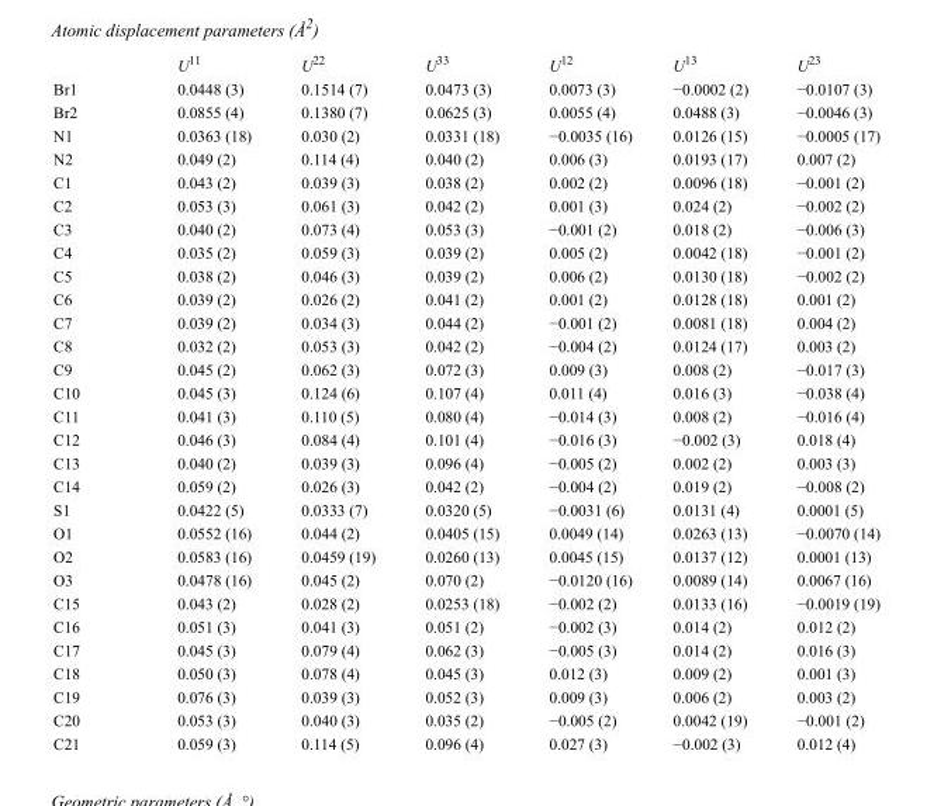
<table><thead><tr><td></td><td>U<sup>11</sup></td><td>U<sup>22</sup></td><td>U<sup>33</sup></td><td>U<sup>12</sup></td><td>U<sup>13</sup></td><td>U<sup>23</sup></td></tr></thead><tbody><tr><td>Br1</td><td>0.0448 (3)</td><td>0.1514 (7)</td><td>0.0473 (3)</td><td>0.0073 (3)</td><td>−0.0002 (2)</td><td>−0.0107 (3)</td></tr><tr><td>Br2</td><td>0.0855 (4)</td><td>0.1380 (7)</td><td>0.0625 (3)</td><td>0.0055 (4)</td><td>0.0488 (3)</td><td>−0.0046 (3)</td></tr><tr><td>N1</td><td>0.0363 (18)</td><td>0.030 (2)</td><td>0.0331 (18)</td><td>−0.0035 (16)</td><td>0.0126 (15)</td><td>−0.0005 (17)</td></tr><tr><td>N2</td><td>0.049 (2)</td><td>0.114 (4)</td><td>0.040 (2)</td><td>0.006 (3)</td><td>0.0193 (17)</td><td>0.007 (2)</td></tr><tr><td>C1</td><td>0.043 (2)</td><td>0.039 (3)</td><td>0.038 (2)</td><td>0.002 (2)</td><td>0.0096 (18)</td><td>−0.001 (2)</td></tr><tr><td>C2</td><td>0.053 (3)</td><td>0.061 (3)</td><td>0.042 (2)</td><td>0.001 (3)</td><td>0.024 (2)</td><td>−0.002 (2)</td></tr><tr><td>C3</td><td>0.040 (2)</td><td>0.073 (4)</td><td>0.053 (3)</td><td>−0.001 (2)</td><td>0.018 (2)</td><td>−0.006 (3)</td></tr><tr><td>C4</td><td>0.035 (2)</td><td>0.059 (3)</td><td>0.039 (2)</td><td>0.005 (2)</td><td>0.0042 (18)</td><td>−0.001 (2)</td></tr><tr><td>C5</td><td>0.038 (2)</td><td>0.046 (3)</td><td>0.039 (2)</td><td>0.006 (2)</td><td>0.0130 (18)</td><td>−0.002 (2)</td></tr><tr><td>C6</td><td>0.039 (2)</td><td>0.026 (2)</td><td>0.041 (2)</td><td>0.001 (2)</td><td>0.0128 (18)</td><td>0.001 (2)</td></tr><tr><td>C7</td><td>0.039 (2)</td><td>0.034 (3)</td><td>0.044 (2)</td><td>−0.001 (2)</td><td>0.0081 (18)</td><td>0.004 (2)</td></tr><tr><td>C8</td><td>0.032 (2)</td><td>0.053 (3)</td><td>0.042 (2)</td><td>−0.004 (2)</td><td>0.0124 (17)</td><td>0.003 (2)</td></tr><tr><td>C9</td><td>0.045 (2)</td><td>0.062 (3)</td><td>0.072 (3)</td><td>0.009 (3)</td><td>0.008 (2)</td><td>−0.017 (3)</td></tr><tr><td>C10</td><td>0.045 (3)</td><td>0.124 (6)</td><td>0.107 (4)</td><td>0.011 (4)</td><td>0.016 (3)</td><td>−0.038 (4)</td></tr><tr><td>C11</td><td>0.041 (3)</td><td>0.110 (5)</td><td>0.080 (4)</td><td>−0.014 (3)</td><td>0.008 (2)</td><td>−0.016 (4)</td></tr><tr><td>C12</td><td>0.046 (3)</td><td>0.084 (4)</td><td>0.101 (4)</td><td>−0.016 (3)</td><td>−0.002 (3)</td><td>0.018 (4)</td></tr><tr><td>C13</td><td>0.040 (2)</td><td>0.039 (3)</td><td>0.096 (4)</td><td>−0.005 (2)</td><td>0.002 (2)</td><td>0.003 (3)</td></tr><tr><td>C14</td><td>0.059 (2)</td><td>0.026 (3)</td><td>0.042 (2)</td><td>−0.004 (2)</td><td>0.019 (2)</td><td>−0.008 (2)</td></tr><tr><td>S1</td><td>0.0422 (5)</td><td>0.0333 (7)</td><td>0.0320 (5)</td><td>−0.0031 (6)</td><td>0.0131 (4)</td><td>0.0001 (5)</td></tr><tr><td>O1</td><td>0.0552 (16)</td><td>0.044 (2)</td><td>0.0405 (15)</td><td>0.0049 (14)</td><td>0.0263 (13)</td><td>−0.0070 (14)</td></tr><tr><td>O2</td><td>0.0583 (16)</td><td>0.0459 (19)</td><td>0.0260 (13)</td><td>0.0045 (15)</td><td>0.0137 (12)</td><td>0.0001 (13)</td></tr><tr><td>O3</td><td>0.0478 (16)</td><td>0.045 (2)</td><td>0.070 (2)</td><td>−0.0120 (16)</td><td>0.0089 (14)</td><td>0.0067 (16)</td></tr><tr><td>C15</td><td>0.043 (2)</td><td>0.028 (2)</td><td>0.0253 (18)</td><td>−0.002 (2)</td><td>0.0133 (16)</td><td>−0.0019 (19)</td></tr><tr><td>C16</td><td>0.051 (3)</td><td>0.041 (3)</td><td>0.051 (2)</td><td>−0.002 (3)</td><td>0.014 (2)</td><td>0.012 (2)</td></tr><tr><td>C17</td><td>0.045 (3)</td><td>0.079 (4)</td><td>0.062 (3)</td><td>−0.005 (3)</td><td>0.014 (2)</td><td>0.016 (3)</td></tr><tr><td>C18</td><td>0.050 (3)</td><td>0.078 (4)</td><td>0.045 (3)</td><td>0.012 (3)</td><td>0.009 (2)</td><td>0.001 (3)</td></tr><tr><td>C19</td><td>0.076 (3)</td><td>0.039 (3)</td><td>0.052 (3)</td><td>0.009 (3)</td><td>0.006 (2)</td><td>0.003 (2)</td></tr><tr><td>C20</td><td>0.053 (3)</td><td>0.040 (3)</td><td>0.035 (2)</td><td>−0.005 (2)</td><td>0.0042 (19)</td><td>−0.001 (2)</td></tr><tr><td>C21</td><td>0.059 (3)</td><td>0.114 (5)</td><td>0.096 (4)</td><td>0.027 (3)</td><td>−0.002 (3)</td><td>0.012 (4)</td></tr></tbody></table>